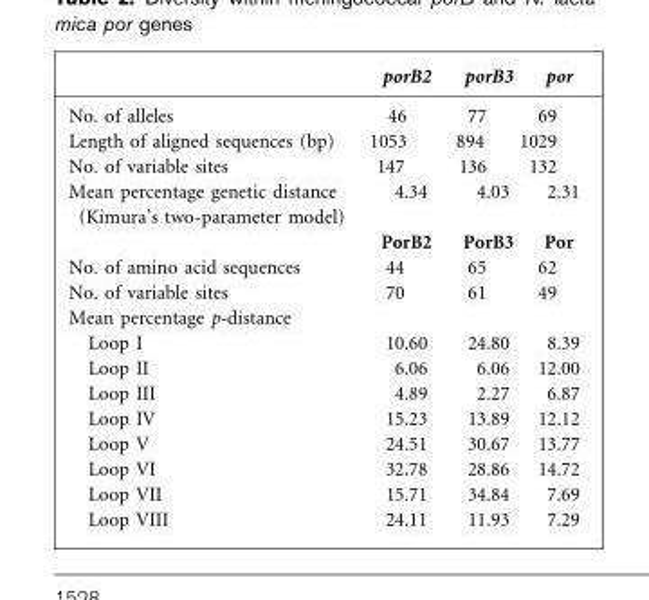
<table><thead><tr><td></td><td>porB2</td><td>porB3</td><td>por</td></tr></thead><tbody><tr><td>No. of alleles</td><td>46</td><td>77</td><td>69</td></tr><tr><td>Length of aligned sequences (bp)</td><td>1053</td><td>894</td><td>1029</td></tr><tr><td>No. of variable sites</td><td>147</td><td>136</td><td>132</td></tr><tr><td rowspan="2">Mean percentage genetic distance (Kimura’s two-parameter model)</td><td>4.34</td><td>4.03</td><td>2.31</td></tr><tr><td>PorB2</td><td>PorB3</td><td>Por</td></tr><tr><td>No. of amino acid sequences</td><td>44</td><td>65</td><td>62</td></tr><tr><td>No. of variable sites</td><td>70</td><td>61</td><td>49</td></tr><tr><td colspan="4">Mean percentage p-distance</td></tr><tr><td>Loop I</td><td>10.60</td><td>24.80</td><td>8.39</td></tr><tr><td>Loop II</td><td>6.06</td><td>6.06</td><td>12.00</td></tr><tr><td>Loop III</td><td>4.89</td><td>2.27</td><td>6.87</td></tr><tr><td>Loop IV</td><td>15.23</td><td>13.89</td><td>12.12</td></tr><tr><td>Loop V</td><td>24.51</td><td>30.67</td><td>13.77</td></tr><tr><td>Loop VI</td><td>32.78</td><td>28.86</td><td>14.72</td></tr><tr><td>Loop VII</td><td>15.71</td><td>34.84</td><td>7.69</td></tr><tr><td>Loop VIII</td><td>24.11</td><td>11.93</td><td>7.29</td></tr></tbody></table>